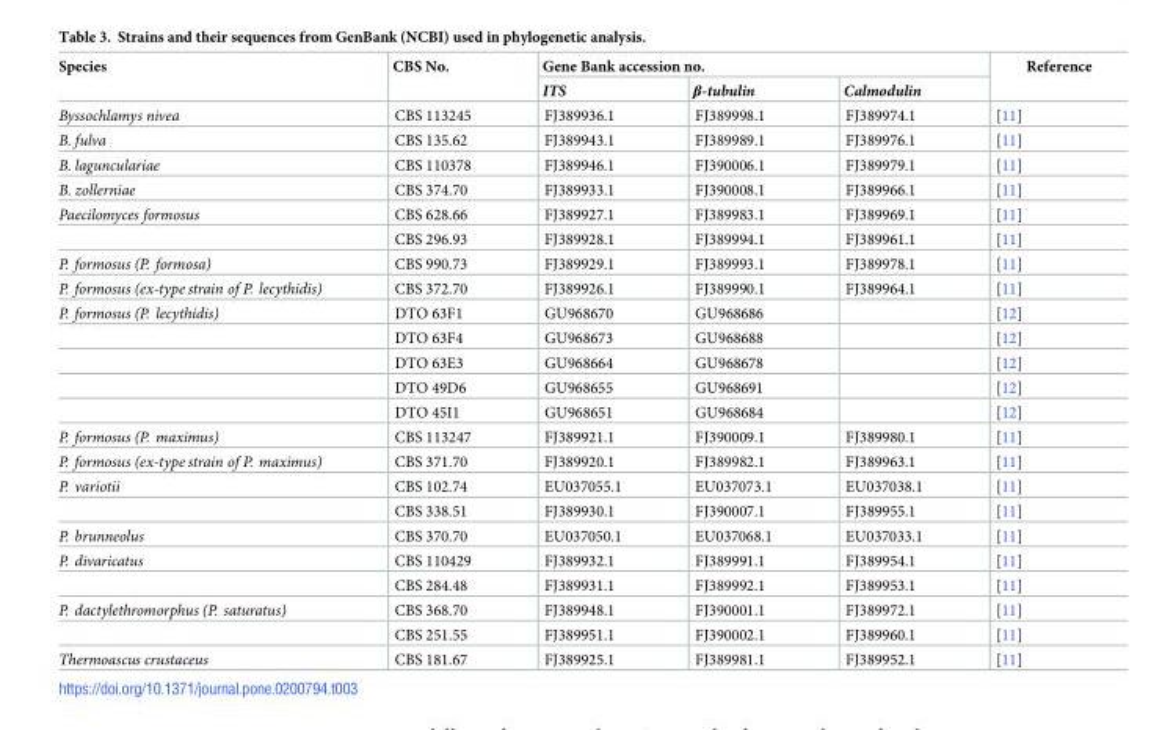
<table><thead><tr><td rowspan="2">Species</td><td rowspan="2">CBS No.</td><td colspan="3">Gene Bank accession no.</td><td rowspan="2">Reference</td></tr><tr><td>ITS</td><td>β-tubulin</td><td>Calmodulin</td></tr></thead><tbody><tr><td>Byssochlamys nivea</td><td>CBS 113245</td><td>FJ389936.1</td><td>FJ389998.1</td><td>FJ389974.1</td><td>[11]</td></tr><tr><td>B. fulva</td><td>CBS 135.62</td><td>FJ389943.1</td><td>FJ389989.1</td><td>FJ389976.1</td><td>[11]</td></tr><tr><td>B. lagunculariae</td><td>CBS 110378</td><td>FJ389946.1</td><td>FJ390006.1</td><td>FJ389979.1</td><td>[11]</td></tr><tr><td>B. zollerniae</td><td>CBS 374.70</td><td>FJ389933.1</td><td>FJ390008.1</td><td>FJ389966.1</td><td>[11]</td></tr><tr><td rowspan="2">Paecilomyces formosus</td><td>CBS 628.66</td><td>FJ389927.1</td><td>FJ389983.1</td><td>FJ389969.1</td><td>[11]</td></tr><tr><td>CBS 296.93</td><td>FJ389928.1</td><td>FJ389994.1</td><td>FJ389961.1</td><td>[11]</td></tr><tr><td>P. formosus (P. formosa)</td><td>CBS 990.73</td><td>FJ389929.1</td><td>FJ389993.1</td><td>FJ389978.1</td><td>[11]</td></tr><tr><td>P. formosus (ex-type strain of P. lecythidis)</td><td>CBS 372.70</td><td>FJ389926.1</td><td>FJ389990.1</td><td>FJ389964.1</td><td>[11]</td></tr><tr><td rowspan="5">P. formosus (P. lecythidis)</td><td>DTO 63F1</td><td>GU968670</td><td>GU968686</td><td></td><td>[12]</td></tr><tr><td>DTO 63F4</td><td>GU968673</td><td>GU968688</td><td></td><td>[12]</td></tr><tr><td>DTO 63E3</td><td>GU968664</td><td>GU968678</td><td></td><td>[12]</td></tr><tr><td>DTO 49D6</td><td>GU968655</td><td>GU968691</td><td></td><td>[12]</td></tr><tr><td>DTO 45I1</td><td>GU968651</td><td>GU968684</td><td></td><td>[12]</td></tr><tr><td>P. formosus (P. maximus)</td><td>CBS 113247</td><td>FJ389921.1</td><td>FJ390009.1</td><td>FJ389980.1</td><td>[11]</td></tr><tr><td>P. formosus (ex-type strain of P. maximus)</td><td>CBS 371.70</td><td>FJ389920.1</td><td>FJ389982.1</td><td>FJ389963.1</td><td>[11]</td></tr><tr><td rowspan="2">P. variotii</td><td>CBS 102.74</td><td>EU037055.1</td><td>EU037073.1</td><td>EU037038.1</td><td>[11]</td></tr><tr><td>CBS 338.51</td><td>FJ389930.1</td><td>FJ390007.1</td><td>FJ389955.1</td><td>[11]</td></tr><tr><td>P. brunneolus</td><td>CBS 370.70</td><td>EU037050.1</td><td>EU037068.1</td><td>EU037033.1</td><td>[11]</td></tr><tr><td rowspan="2">P. divaricatus</td><td>CBS 110429</td><td>FJ389932.1</td><td>FJ389991.1</td><td>FJ389954.1</td><td>[11]</td></tr><tr><td>CBS 284.48</td><td>FJ389931.1</td><td>FJ389992.1</td><td>FJ389953.1</td><td>[11]</td></tr><tr><td rowspan="2">P. dactylethromorphus (P. saturatus)</td><td>CBS 368.70</td><td>FJ389948.1</td><td>FJ390001.1</td><td>FJ389972.1</td><td>[11]</td></tr><tr><td>CBS 251.55</td><td>FJ389951.1</td><td>FJ390002.1</td><td>FJ389960.1</td><td>[11]</td></tr><tr><td>Thermoascus crustaceus</td><td>CBS 181.67</td><td>FJ389925.1</td><td>FJ389981.1</td><td>FJ389952.1</td><td>[11]</td></tr></tbody></table>